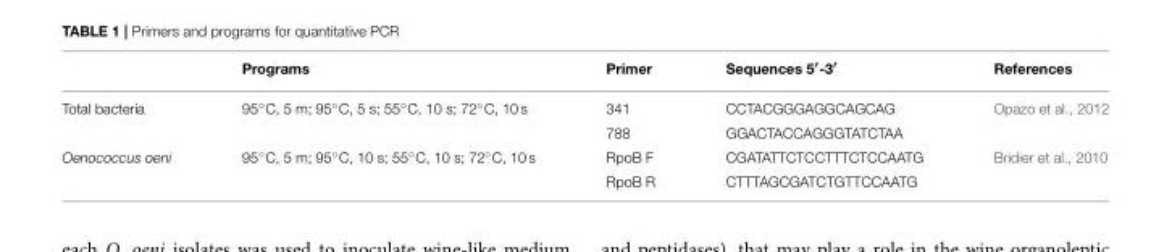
<table><thead><tr><td></td><td>Programs</td><td>Primer</td><td>Sequences 5′-3′</td><td>References</td></tr></thead><tbody><tr><td rowspan="2">Total bacteria</td><td>95◦C, 5 m; 95◦C, 5 s; 55◦C, 10 s; 72◦C, 10 s</td><td>341</td><td>CCTACGGGAGGCAGCAG</td><td>Opazo et al., 2012</td></tr><tr><td></td><td>788</td><td>GGACTACCAGGGTATCTAA</td><td></td></tr><tr><td rowspan="2">Oenococcus oeni</td><td>95◦C, 5 m; 95◦C, 10 s; 55◦C, 10 s; 72◦C, 10 s</td><td>RpoB F</td><td>CGATATTCTCCTTTCTCCAATG</td><td>Bridier et al., 2010</td></tr><tr><td></td><td>RpoB R</td><td>CTTTAGCGATCTGTTCCAATG</td><td></td></tr></tbody></table>